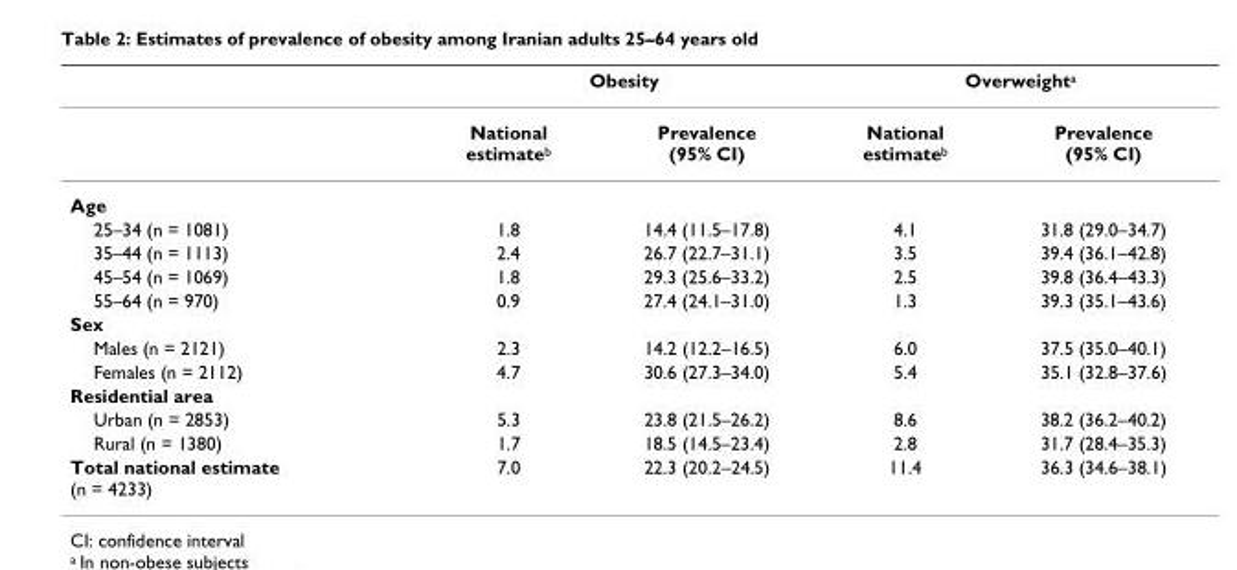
<table><thead><tr><td rowspan="2"></td><td colspan="2">Obesity</td><td colspan="2">Overweight<sup>a</sup></td></tr><tr><td>National estimate<sup>b</sup></td><td>Prevalence (95% CI)</td><td>National estimate<sup>b</sup></td><td>Prevalence (95% CI)</td></tr></thead><tbody><tr><td colspan="5">Age</td></tr><tr><td>25–34 (n = 1081)</td><td>1.8</td><td>14.4 (11.5–17.8)</td><td>4.1</td><td>31.8 (29.0–34.7)</td></tr><tr><td>35–44 (n = 1113)</td><td>2.4</td><td>26.7 (22.7–31.1)</td><td>3.5</td><td>39.4 (36.1–42.8)</td></tr><tr><td>45–54 (n = 1069)</td><td>1.8</td><td>29.3 (25.6–33.2)</td><td>2.5</td><td>39.8 (36.4–43.3)</td></tr><tr><td>55–64 (n = 970)</td><td>0.9</td><td>27.4 (24.1–31.0)</td><td>1.3</td><td>39.3 (35.1–43.6)</td></tr><tr><td colspan="5">Sex</td></tr><tr><td>Males (n = 2121)</td><td>2.3</td><td>14.2 (12.2–16.5)</td><td>6.0</td><td>37.5 (35.0–40.1)</td></tr><tr><td>Females (n = 2112)</td><td>4.7</td><td>30.6 (27.3–34.0)</td><td>5.4</td><td>35.1 (32.8–37.6)</td></tr><tr><td colspan="5">Residential area</td></tr><tr><td>Urban (n = 2853)</td><td>5.3</td><td>23.8 (21.5–26.2)</td><td>8.6</td><td>38.2 (36.2–40.2)</td></tr><tr><td>Rural (n = 1380)</td><td>1.7</td><td>18.5 (14.5–23.4)</td><td>2.8</td><td>31.7 (28.4–35.3)</td></tr><tr><td>Total national estimate (n = 4233)</td><td>7.0</td><td>22.3 (20.2–24.5)</td><td>11.4</td><td>36.3 (34.6–38.1)</td></tr></tbody></table>